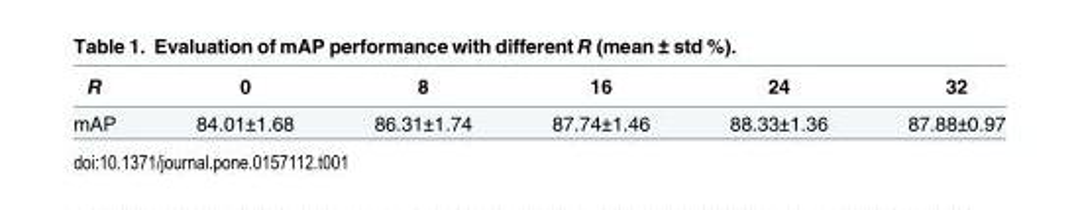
<table><thead><tr><td>R</td><td>0</td><td>8</td><td>16</td><td>24</td><td>32</td></tr></thead><tbody><tr><td>mAP</td><td>84.01±1.68</td><td>86.31±1.74</td><td>87.74±1.46</td><td>88.33±1.36</td><td>87.88±0.97</td></tr></tbody></table>